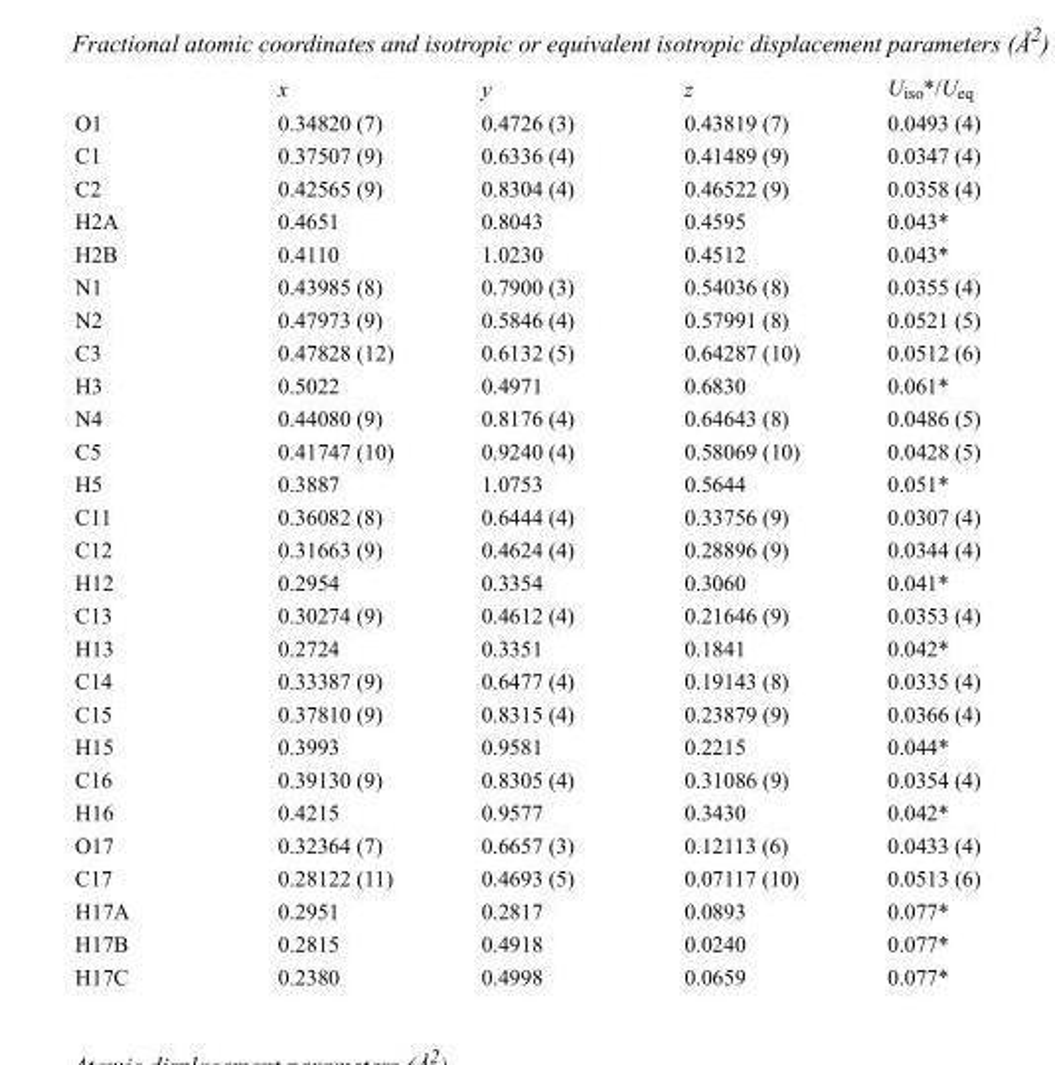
<table><thead><tr><td></td><td>x</td><td>y</td><td>z</td><td>U<sub>iso</sub>*/U<sub>eq</sub></td></tr></thead><tbody><tr><td>O1</td><td>0.34820 (7)</td><td>0.4726 (3)</td><td>0.43819 (7)</td><td>0.0493 (4)</td></tr><tr><td>C1</td><td>0.37507 (9)</td><td>0.6336 (4)</td><td>0.41489 (9)</td><td>0.0347 (4)</td></tr><tr><td>C2</td><td>0.42565 (9)</td><td>0.8304 (4)</td><td>0.46522 (9)</td><td>0.0358 (4)</td></tr><tr><td>H2A</td><td>0.4651</td><td>0.8043</td><td>0.4595</td><td>0.043*</td></tr><tr><td>H2B</td><td>0.4110</td><td>1.0230</td><td>0.4512</td><td>0.043*</td></tr><tr><td>N1</td><td>0.43985 (8)</td><td>0.7900 (3)</td><td>0.54036 (8)</td><td>0.0355 (4)</td></tr><tr><td>N2</td><td>0.47973 (9)</td><td>0.5846 (4)</td><td>0.57991 (8)</td><td>0.0521 (5)</td></tr><tr><td>C3</td><td>0.47828 (12)</td><td>0.6132 (5)</td><td>0.64287 (10)</td><td>0.0512 (6)</td></tr><tr><td>H3</td><td>0.5022</td><td>0.4971</td><td>0.6830</td><td>0.061*</td></tr><tr><td>N4</td><td>0.44080 (9)</td><td>0.8176 (4)</td><td>0.64643 (8)</td><td>0.0486 (5)</td></tr><tr><td>C5</td><td>0.41747 (10)</td><td>0.9240 (4)</td><td>0.58069 (10)</td><td>0.0428 (5)</td></tr><tr><td>H5</td><td>0.3887</td><td>1.0753</td><td>0.5644</td><td>0.051*</td></tr><tr><td>C11</td><td>0.36082 (8)</td><td>0.6444 (4)</td><td>0.33756 (9)</td><td>0.0307 (4)</td></tr><tr><td>C12</td><td>0.31663 (9)</td><td>0.4624 (4)</td><td>0.28896 (9)</td><td>0.0344 (4)</td></tr><tr><td>H12</td><td>0.2954</td><td>0.3354</td><td>0.3060</td><td>0.041*</td></tr><tr><td>C13</td><td>0.30274 (9)</td><td>0.4612 (4)</td><td>0.21646 (9)</td><td>0.0353 (4)</td></tr><tr><td>H13</td><td>0.2724</td><td>0.3351</td><td>0.1841</td><td>0.042*</td></tr><tr><td>C14</td><td>0.33387 (9)</td><td>0.6477 (4)</td><td>0.19143 (8)</td><td>0.0335 (4)</td></tr><tr><td>C15</td><td>0.37810 (9)</td><td>0.8315 (4)</td><td>0.23879 (9)</td><td>0.0366 (4)</td></tr><tr><td>H15</td><td>0.3993</td><td>0.9581</td><td>0.2215</td><td>0.044*</td></tr><tr><td>C16</td><td>0.39130 (9)</td><td>0.8305 (4)</td><td>0.31086 (9)</td><td>0.0354 (4)</td></tr><tr><td>H16</td><td>0.4215</td><td>0.9577</td><td>0.3430</td><td>0.042*</td></tr><tr><td>O17</td><td>0.32364 (7)</td><td>0.6657 (3)</td><td>0.12113 (6)</td><td>0.0433 (4)</td></tr><tr><td>C17</td><td>0.28122 (11)</td><td>0.4693 (5)</td><td>0.07117 (10)</td><td>0.0513 (6)</td></tr><tr><td>H17A</td><td>0.2951</td><td>0.2817</td><td>0.0893</td><td>0.077*</td></tr><tr><td>H17B</td><td>0.2815</td><td>0.4918</td><td>0.0240</td><td>0.077*</td></tr><tr><td>H17C</td><td>0.2380</td><td>0.4998</td><td>0.0659</td><td>0.077*</td></tr></tbody></table>